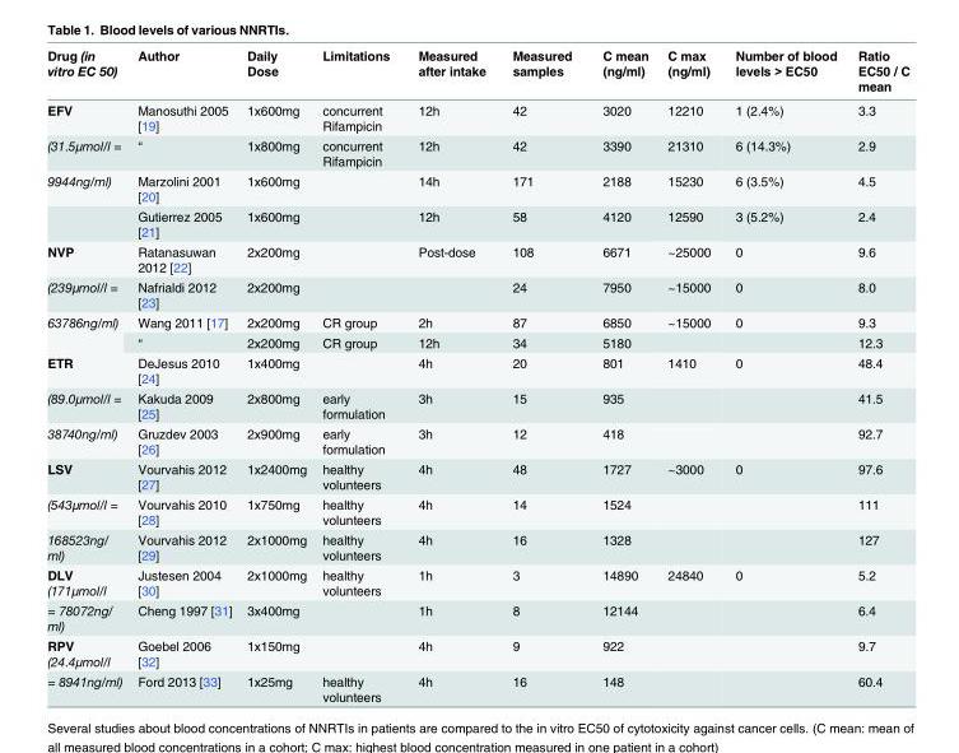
<table><thead><tr><td>Drug (in vitro EC 50)</td><td>Author</td><td>Daily Dose</td><td>Limitations</td><td>Measured after intake</td><td>Measured samples</td><td>C mean (ng/ml)</td><td>C max (ng/ml)</td><td>Number of blood levels &gt; EC50</td><td>Ratio EC50 / C mean</td></tr></thead><tbody><tr><td>EFV</td><td>Manosuthi 2005 [19]</td><td>1x600mg</td><td>concurrent Rifampicin</td><td>12h</td><td>42</td><td>3020</td><td>12210</td><td>1 (2.4%)</td><td>3.3</td></tr><tr><td>(31.5μmol/l =</td><td>“</td><td>1x800mg</td><td>concurrent Rifampicin</td><td>12h</td><td>42</td><td>3390</td><td>21310</td><td>6 (14.3%)</td><td>2.9</td></tr><tr><td rowspan="2">9944ng/ml)</td><td>Marzolini 2001 [20]</td><td>1x600mg</td><td></td><td>14h</td><td>171</td><td>2188</td><td>15230</td><td>6 (3.5%)</td><td>4.5</td></tr><tr><td>Gutierrez 2005 [21]</td><td>1x600mg</td><td></td><td>12h</td><td>58</td><td>4120</td><td>12590</td><td>3 (5.2%)</td><td>2.4</td></tr><tr><td>NVP</td><td>Ratanasuwan 2012 [22]</td><td>2x200mg</td><td></td><td>Post-dose</td><td>108</td><td>6671</td><td>~25000</td><td>0</td><td>9.6</td></tr><tr><td>(239μmol/l =</td><td>Nafrialdi 2012 [23]</td><td>2x200mg</td><td></td><td></td><td>24</td><td>7950</td><td>~15000</td><td>0</td><td>8.0</td></tr><tr><td rowspan="2">63786ng/ml)</td><td>Wang 2011 [17]</td><td>2x200mg</td><td>CR group</td><td>2h</td><td>87</td><td>6850</td><td>~15000</td><td>0</td><td>9.3</td></tr><tr><td>“</td><td>2x200mg</td><td>CR group</td><td>12h</td><td>34</td><td>5180</td><td></td><td></td><td>12.3</td></tr><tr><td>ETR</td><td>DeJesus 2010 [24]</td><td>1x400mg</td><td></td><td>4h</td><td>20</td><td>801</td><td>1410</td><td>0</td><td>48.4</td></tr><tr><td>(89.0μmol/l =</td><td>Kakuda 2009 [25]</td><td>2x800mg</td><td>early formulation</td><td>3h</td><td>15</td><td>935</td><td></td><td></td><td>41.5</td></tr><tr><td>38740ng/ml)</td><td>Gruzdev 2003 [26]</td><td>2x900mg</td><td>early formulation</td><td>3h</td><td>12</td><td>418</td><td></td><td></td><td>92.7</td></tr><tr><td>LSV</td><td>Vourvahis 2012 [27]</td><td>1x2400mg</td><td>healthy volunteers</td><td>4h</td><td>48</td><td>1727</td><td>~3000</td><td>0</td><td>97.6</td></tr><tr><td>(543μmol/l =</td><td>Vourvahis 2010 [28]</td><td>1x750mg</td><td>healthy volunteers</td><td>4h</td><td>14</td><td>1524</td><td></td><td></td><td>111</td></tr><tr><td>168523ng/ ml)</td><td>Vourvahis 2012 [29]</td><td>2x1000mg</td><td>healthy volunteers</td><td>4h</td><td>16</td><td>1328</td><td></td><td></td><td>127</td></tr><tr><td>DLV (171μmol/l</td><td>Justesen 2004 [30]</td><td>2x1000mg</td><td>healthy volunteers</td><td>1h</td><td>3</td><td>14890</td><td>24840</td><td>0</td><td>5.2</td></tr><tr><td>= 78072ng/ ml)</td><td>Cheng 1997 [31]</td><td>3x400mg</td><td></td><td>1h</td><td>8</td><td>12144</td><td></td><td></td><td>6.4</td></tr><tr><td>RPV (24.4μmol/l</td><td>Goebel 2006 [32]</td><td>1x150mg</td><td></td><td>4h</td><td>9</td><td>922</td><td></td><td></td><td>9.7</td></tr><tr><td>= 8941ng/ml)</td><td>Ford 2013 [33]</td><td>1x25mg</td><td>healthy volunteers</td><td>4h</td><td>16</td><td>148</td><td></td><td></td><td>60.4</td></tr></tbody></table>